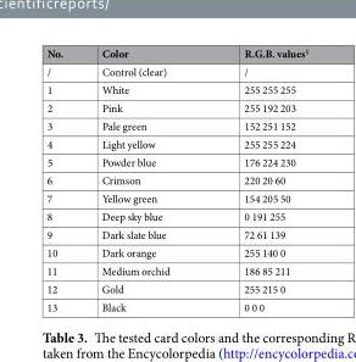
<table><thead><tr><td>No.</td><td>Color</td><td>R.G.B. values<sup>1</sup></td></tr></thead><tbody><tr><td>/</td><td>Control (clear)</td><td>/</td></tr><tr><td>1</td><td>White</td><td>255 255 255</td></tr><tr><td>2</td><td>Pink</td><td>255 192 203</td></tr><tr><td>3</td><td>Pale green</td><td>152 251 152</td></tr><tr><td>4</td><td>Light yellow</td><td>255 255 224</td></tr><tr><td>5</td><td>Powder blue</td><td>176 224 230</td></tr><tr><td>6</td><td>Crimson</td><td>220 20 60</td></tr><tr><td>7</td><td>Yellow green</td><td>154 205 50</td></tr><tr><td>8</td><td>Deep sky blue</td><td>0 191 255</td></tr><tr><td>9</td><td>Dark slate blue</td><td>72 61 139</td></tr><tr><td>10</td><td>Dark orange</td><td>255 140 0</td></tr><tr><td>11</td><td>Medium orchid</td><td>186 85 211</td></tr><tr><td>12</td><td>Gold</td><td>255 215 0</td></tr><tr><td>13</td><td>Black</td><td>0 0 0</td></tr></tbody></table>